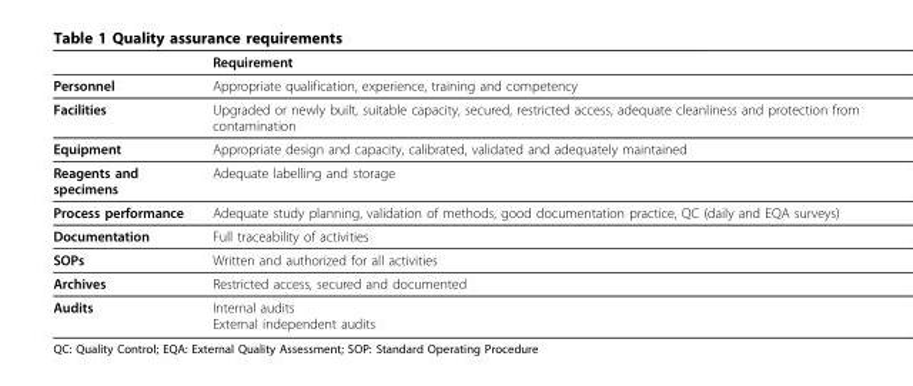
<table><thead><tr><td></td><td>Requirement</td></tr></thead><tbody><tr><td>Personnel</td><td>Appropriate qualification, experience, training and competency</td></tr><tr><td>Facilities</td><td>Upgraded or newly built, suitable capacity, secured, restricted access, adequate cleanliness and protection from contamination</td></tr><tr><td>Equipment</td><td>Appropriate design and capacity, calibrated, validated and adequately maintained</td></tr><tr><td>Reagents and specimens</td><td>Adequate labelling and storage</td></tr><tr><td>Process performance</td><td>Adequate study planning, validation of methods, good documentation practice, QC (daily and EQA surveys)</td></tr><tr><td>Documentation</td><td>Full traceability of activities</td></tr><tr><td>SOPs</td><td>Written and authorized for all activities</td></tr><tr><td>Archives</td><td>Restricted access, secured and documented</td></tr><tr><td>Audits</td><td>Internal audits External independent audits</td></tr></tbody></table>